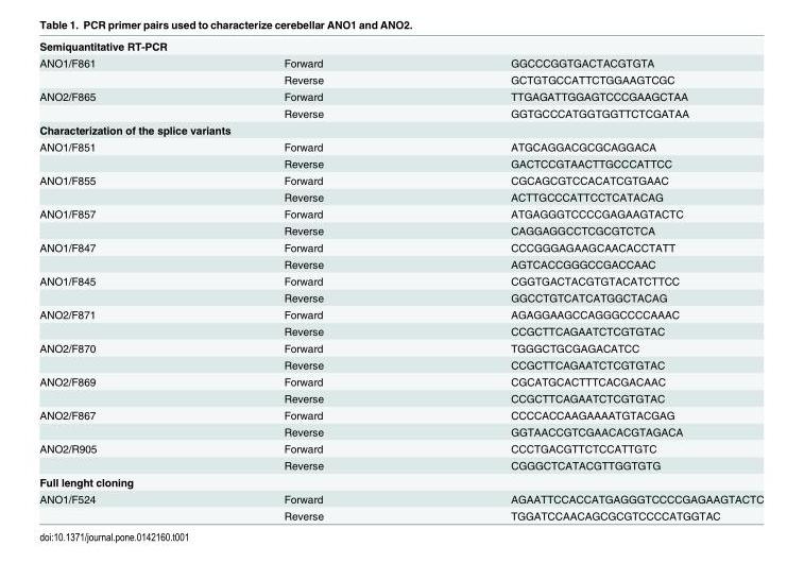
<table><tbody><tr><td colspan="3">Semiquantitative RT-PCR</td></tr><tr><td rowspan="2">ANO1/F861</td><td>Forward</td><td>GGCCCGGTGACTACGTGTA</td></tr><tr><td>Reverse</td><td>GCTGTGCCATTCTGGAAGTCGC</td></tr><tr><td rowspan="2">ANO2/F865</td><td>Forward</td><td>TTGAGATTGGAGTCCCGAAGCTAA</td></tr><tr><td>Reverse</td><td>GGTGCCCATGGTGGTTCTCGATAA</td></tr><tr><td colspan="3">Characterization of the splice variants</td></tr><tr><td rowspan="2">ANO1/F851</td><td>Forward</td><td>ATGCAGGACGCGCAGGACA</td></tr><tr><td>Reverse</td><td>GACTCCGTAACTTGCCCATTCC</td></tr><tr><td rowspan="2">ANO1/F855</td><td>Forward</td><td>CGCAGCGTCCACATCGTGAAC</td></tr><tr><td>Reverse</td><td>ACTTGCCCATTCCTCATACAG</td></tr><tr><td rowspan="2">ANO1/F857</td><td>Forward</td><td>ATGAGGGTCCCCGAGAAGTACTC</td></tr><tr><td>Reverse</td><td>CAGGAGGCCTCGCGTCTCA</td></tr><tr><td rowspan="2">ANO1/F847</td><td>Forward</td><td>CCCGGGAGAAGCAACACCTATT</td></tr><tr><td>Reverse</td><td>AGTCACCGGGCCGACCAAC</td></tr><tr><td rowspan="2">ANO1/F845</td><td>Forward</td><td>CGGTGACTACGTGTACATCTTCC</td></tr><tr><td>Reverse</td><td>GGCCTGTCATCATGGCTACAG</td></tr><tr><td rowspan="2">ANO2/F871</td><td>Forward</td><td>AGAGGAAGCCAGGGCCCCAAAC</td></tr><tr><td>Reverse</td><td>CCGCTTCAGAATCTCGTGTAC</td></tr><tr><td rowspan="2">ANO2/F870</td><td>Forward</td><td>TGGGCTGCGAGACATCC</td></tr><tr><td>Reverse</td><td>CCGCTTCAGAATCTCGTGTAC</td></tr><tr><td rowspan="2">ANO2/F869</td><td>Forward</td><td>CGCATGCACTTTCACGACAAC</td></tr><tr><td>Reverse</td><td>CCGCTTCAGAATCTCGTGTAC</td></tr><tr><td rowspan="2">ANO2/F867</td><td>Forward</td><td>CCCCACCAAGAAAATGTACGAG</td></tr><tr><td>Reverse</td><td>GGTAACCGTCGAACACGTAGACA</td></tr><tr><td rowspan="2">ANO2/R905</td><td>Forward</td><td>CCCTGACGTTCTCCATTGTC</td></tr><tr><td>Reverse</td><td>CGGGCTCATACGTTGGTGTG</td></tr><tr><td colspan="3">Full lenght cloning</td></tr><tr><td rowspan="2">ANO1/F524</td><td>Forward</td><td>AGAATTCCACCATGAGGGTCCCCGAGAAGTACTC</td></tr><tr><td>Reverse</td><td>TGGATCCAACAGCGCGTCCCCATGGTAC</td></tr></tbody></table>